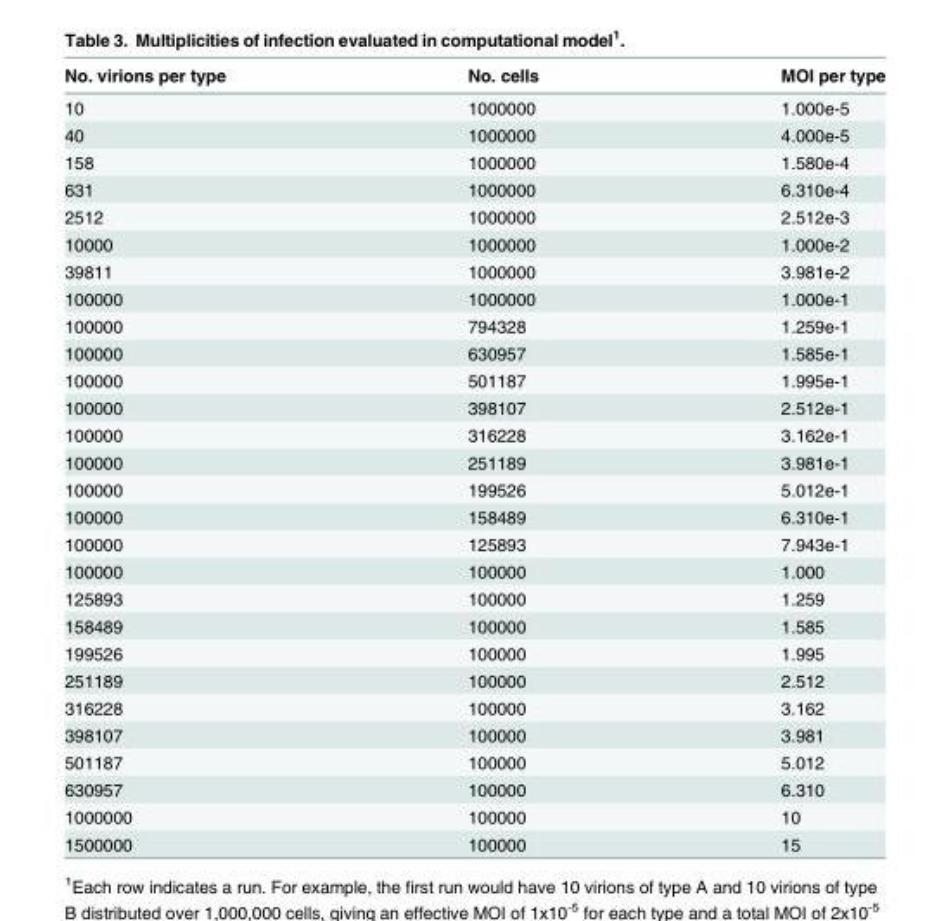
<table><thead><tr><td>No. virions per type</td><td>No. cells</td><td>MOI per type</td></tr></thead><tbody><tr><td>10</td><td>1000000</td><td>1.000e-5</td></tr><tr><td>40</td><td>1000000</td><td>4.000e-5</td></tr><tr><td>158</td><td>1000000</td><td>1.580e-4</td></tr><tr><td>631</td><td>1000000</td><td>6.310e-4</td></tr><tr><td>2512</td><td>1000000</td><td>2.512e-3</td></tr><tr><td>10000</td><td>1000000</td><td>1.000e-2</td></tr><tr><td>39811</td><td>1000000</td><td>3.981e-2</td></tr><tr><td>100000</td><td>1000000</td><td>1.000e-1</td></tr><tr><td>100000</td><td>794328</td><td>1.259e-1</td></tr><tr><td>100000</td><td>630957</td><td>1.585e-1</td></tr><tr><td>100000</td><td>501187</td><td>1.995e-1</td></tr><tr><td>100000</td><td>398107</td><td>2.512e-1</td></tr><tr><td>100000</td><td>316228</td><td>3.162e-1</td></tr><tr><td>100000</td><td>251189</td><td>3.981e-1</td></tr><tr><td>100000</td><td>199526</td><td>5.012e-1</td></tr><tr><td>100000</td><td>158489</td><td>6.310e-1</td></tr><tr><td>100000</td><td>125893</td><td>7.943e-1</td></tr><tr><td>100000</td><td>100000</td><td>1.000</td></tr><tr><td>125893</td><td>100000</td><td>1.259</td></tr><tr><td>158489</td><td>100000</td><td>1.585</td></tr><tr><td>199526</td><td>100000</td><td>1.995</td></tr><tr><td>251189</td><td>100000</td><td>2.512</td></tr><tr><td>316228</td><td>100000</td><td>3.162</td></tr><tr><td>398107</td><td>100000</td><td>3.981</td></tr><tr><td>501187</td><td>100000</td><td>5.012</td></tr><tr><td>630957</td><td>100000</td><td>6.310</td></tr><tr><td>1000000</td><td>100000</td><td>10</td></tr><tr><td>1500000</td><td>100000</td><td>15</td></tr></tbody></table>